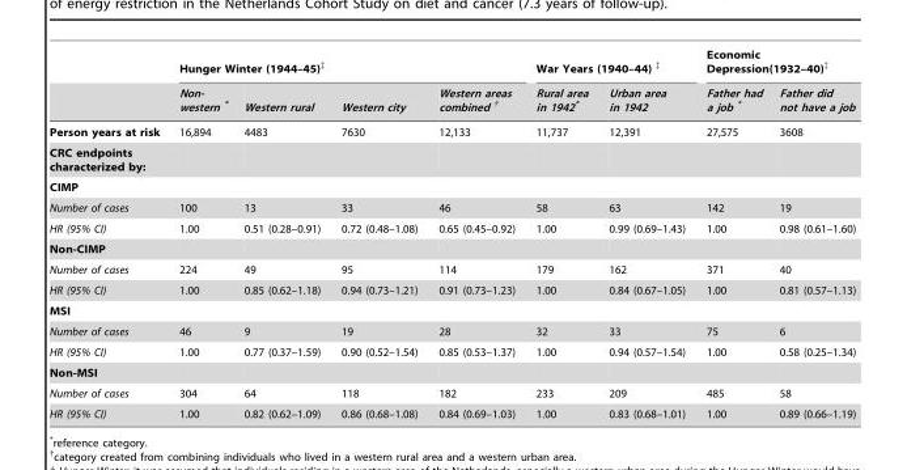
<table><thead><tr><td rowspan="2"></td><td colspan="4">Hunger Winter (1944–45)‡</td><td colspan="2">War Years (1940–44) ‡</td><td colspan="2">Economic Depression(1932–40)‡</td></tr><tr><td>Non- western *</td><td>Western rural</td><td>Western city</td><td>Western areas combined †</td><td>Rural area in 1942*</td><td>Urban area in 1942</td><td>Father had a job *</td><td>Father did not have a job</td></tr></thead><tbody><tr><td>Person years at risk</td><td>16,894</td><td>4483</td><td>7630</td><td>12,133</td><td>11,737</td><td>12,391</td><td>27,575</td><td>3608</td></tr><tr><td colspan="9">CRC endpoints characterized by:</td></tr><tr><td colspan="9">CIMP</td></tr><tr><td>Number of cases</td><td>100</td><td>13</td><td>33</td><td>46</td><td>58</td><td>63</td><td>142</td><td>19</td></tr><tr><td>HR (95% CI)</td><td>1.00</td><td>0.51 (0.28–0.91)</td><td>0.72 (0.48–1.08)</td><td>0.65 (0.45–0.92)</td><td>1.00</td><td>0.99 (0.69–1.43)</td><td>1.00</td><td>0.98 (0.61–1.60)</td></tr><tr><td colspan="9">Non-CIMP</td></tr><tr><td>Number of cases</td><td>224</td><td>49</td><td>95</td><td>114</td><td>179</td><td>162</td><td>371</td><td>40</td></tr><tr><td>HR (95% CI)</td><td>1.00</td><td>0.85 (0.62–1.18)</td><td>0.94 (0.73–1.21)</td><td>0.91 (0.73–1.23)</td><td>1.00</td><td>0.84 (0.67–1.05)</td><td>1.00</td><td>0.81 (0.57–1.13)</td></tr><tr><td colspan="9">MSI</td></tr><tr><td>Number of cases</td><td>46</td><td>9</td><td>19</td><td>28</td><td>32</td><td>33</td><td>75</td><td>6</td></tr><tr><td>HR (95% CI)</td><td>1.00</td><td>0.77 (0.37–1.59)</td><td>0.90 (0.52–1.54)</td><td>0.85 (0.53–1.37)</td><td>1.00</td><td>0.94 (0.57–1.54)</td><td>1.00</td><td>0.58 (0.25–1.34)</td></tr><tr><td colspan="9">Non-MSI</td></tr><tr><td>Number of cases</td><td>304</td><td>64</td><td>118</td><td>182</td><td>233</td><td>209</td><td>485</td><td>58</td></tr><tr><td>HR (95% CI)</td><td>1.00</td><td>0.82 (0.62–1.09)</td><td>0.86 (0.68–1.08)</td><td>0.84 (0.69–1.03)</td><td>1.00</td><td>0.83 (0.68–1.01)</td><td>1.00</td><td>0.89 (0.66–1.19)</td></tr></tbody></table>